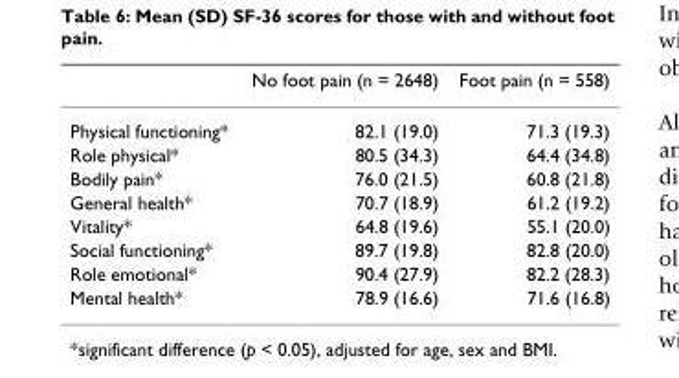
<table><thead><tr><td></td><td>No foot pain (n = 2648)</td><td>Foot pain (n = 558)</td></tr></thead><tbody><tr><td>Physical functioning*</td><td>82.1 (19.0)</td><td>71.3 (19.3)</td></tr><tr><td>Role physical*</td><td>80.5 (34.3)</td><td>64.4 (34.8)</td></tr><tr><td>Bodily pain*</td><td>76.0 (21.5)</td><td>60.8 (21.8)</td></tr><tr><td>General health*</td><td>70.7 (18.9)</td><td>61.2 (19.2)</td></tr><tr><td>Vitality*</td><td>64.8 (19.6)</td><td>55.1 (20.0)</td></tr><tr><td>Social functioning*</td><td>89.7 (19.8)</td><td>82.8 (20.0)</td></tr><tr><td>Role emotional*</td><td>90.4 (27.9)</td><td>82.2 (28.3)</td></tr><tr><td>Mental health*</td><td>78.9 (16.6)</td><td>71.6 (16.8)</td></tr></tbody></table>